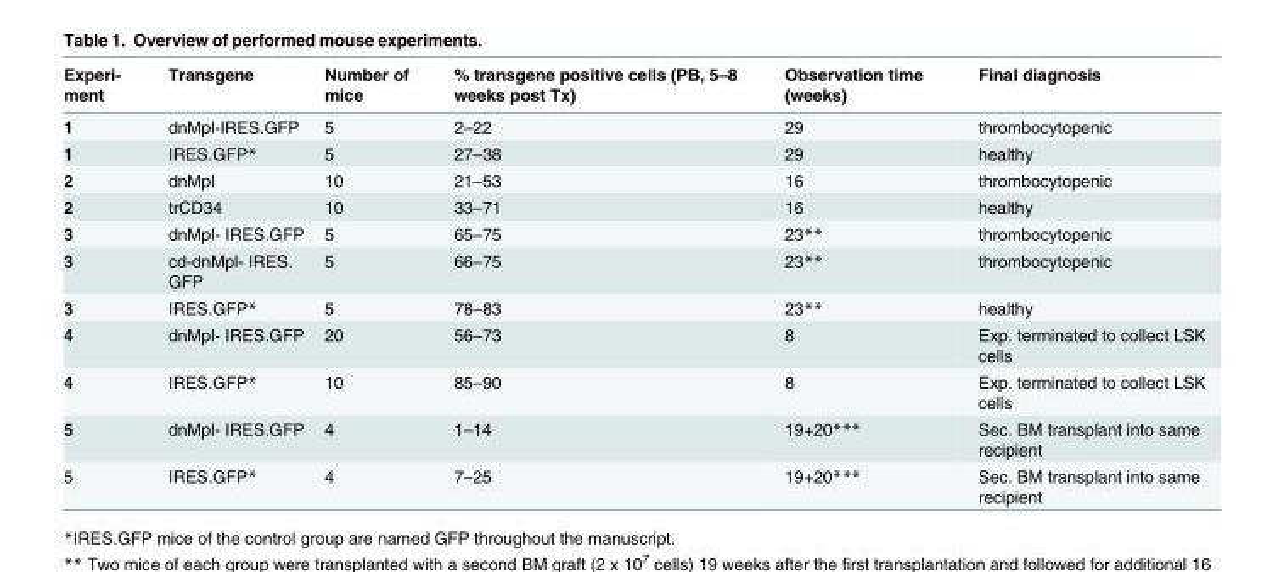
<table><thead><tr><td>Experi- ment</td><td>Transgene</td><td>Number of mice</td><td>% transgene positive cells (PB, 5–8 weeks post Tx)</td><td>Observation time (weeks)</td><td>Final diagnosis</td></tr></thead><tbody><tr><td>1</td><td>dnMpl-IRES.GFP</td><td>5</td><td>2–22</td><td>29</td><td>thrombocytopenic</td></tr><tr><td>1</td><td>IRES.GFP*</td><td>5</td><td>27–38</td><td>29</td><td>healthy</td></tr><tr><td>2</td><td>dnMpl</td><td>10</td><td>21–53</td><td>16</td><td>thrombocytopenic</td></tr><tr><td>2</td><td>trCD34</td><td>10</td><td>33–71</td><td>16</td><td>healthy</td></tr><tr><td>3</td><td>dnMpl- IRES.GFP</td><td>5</td><td>65–75</td><td>23**</td><td>thrombocytopenic</td></tr><tr><td>3</td><td>cd-dnMpl- IRES. GFP</td><td>5</td><td>66–75</td><td>23**</td><td>thrombocytopenic</td></tr><tr><td>3</td><td>IRES.GFP*</td><td>5</td><td>78–83</td><td>23**</td><td>healthy</td></tr><tr><td>4</td><td>dnMpl- IRES.GFP</td><td>20</td><td>56–73</td><td>8</td><td>Exp. terminated to collect LSK cells</td></tr><tr><td>4</td><td>IRES.GFP*</td><td>10</td><td>85–90</td><td>8</td><td>Exp. terminated to collect LSK cells</td></tr><tr><td>5</td><td>dnMpl- IRES.GFP</td><td>4</td><td>1–14</td><td>19+20***</td><td>Sec. BM transplant into same recipient</td></tr><tr><td>5</td><td>IRES.GFP*</td><td>4</td><td>7–25</td><td>19+20***</td><td>Sec. BM transplant into same recipient</td></tr></tbody></table>